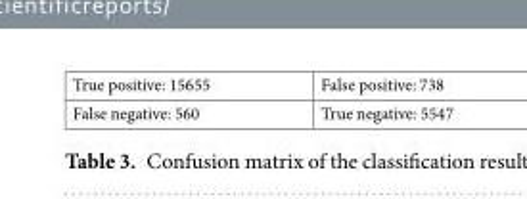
<table><tbody><tr><td>True positive: 15655</td><td>False positive: 738</td></tr><tr><td>False negative: 560</td><td>True negative: 5547</td></tr></tbody></table>